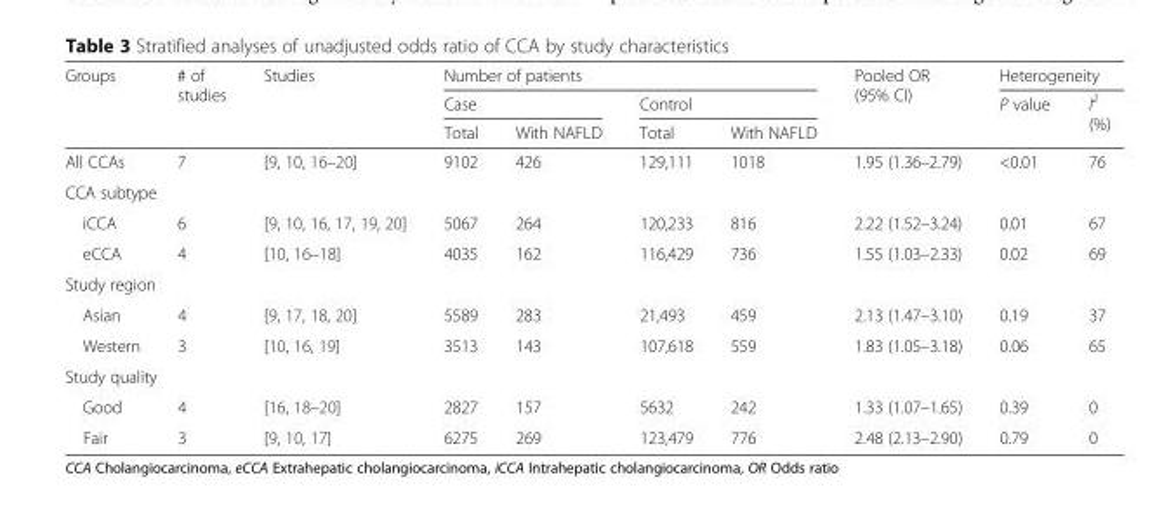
<table><thead><tr><td rowspan="3">Groups</td><td rowspan="3"># of studies</td><td rowspan="3">Studies</td><td colspan="4">Number of patients</td><td rowspan="3">Pooled OR (95% CI)</td><td colspan="2">Heterogeneity</td></tr><tr><td colspan="2">Case</td><td colspan="2">Control</td><td rowspan="2">P value</td><td rowspan="2">I<sup>2</sup> (%)</td></tr><tr><td>Total</td><td>With NAFLD</td><td>Total</td><td>With NAFLD</td></tr></thead><tbody><tr><td>All CCAs</td><td>7</td><td>[9, 10, 16–20]</td><td>9102</td><td>426</td><td>129,111</td><td>1018</td><td>1.95 (1.36–2.79)</td><td>&lt;0.01</td><td>76</td></tr><tr><td colspan="10">CCA subtype</td></tr><tr><td>iCCA</td><td>6</td><td>[9, 10, 16, 17, 19, 20]</td><td>5067</td><td>264</td><td>120,233</td><td>816</td><td>2.22 (1.52–3.24)</td><td>0.01</td><td>67</td></tr><tr><td>eCCA</td><td>4</td><td>[10, 16–18]</td><td>4035</td><td>162</td><td>116,429</td><td>736</td><td>1.55 (1.03–2.33)</td><td>0.02</td><td>69</td></tr><tr><td colspan="10">Study region</td></tr><tr><td>Asian</td><td>4</td><td>[9, 17, 18, 20]</td><td>5589</td><td>283</td><td>21,493</td><td>459</td><td>2.13 (1.47–3.10)</td><td>0.19</td><td>37</td></tr><tr><td>Western</td><td>3</td><td>[10, 16, 19]</td><td>3513</td><td>143</td><td>107,618</td><td>559</td><td>1.83 (1.05–3.18)</td><td>0.06</td><td>65</td></tr><tr><td colspan="10">Study quality</td></tr><tr><td>Good</td><td>4</td><td>[16, 18–20]</td><td>2827</td><td>157</td><td>5632</td><td>242</td><td>1.33 (1.07–1.65)</td><td>0.39</td><td>0</td></tr><tr><td>Fair</td><td>3</td><td>[9, 10, 17]</td><td>6275</td><td>269</td><td>123,479</td><td>776</td><td>2.48 (2.13–2.90)</td><td>0.79</td><td>0</td></tr></tbody></table>